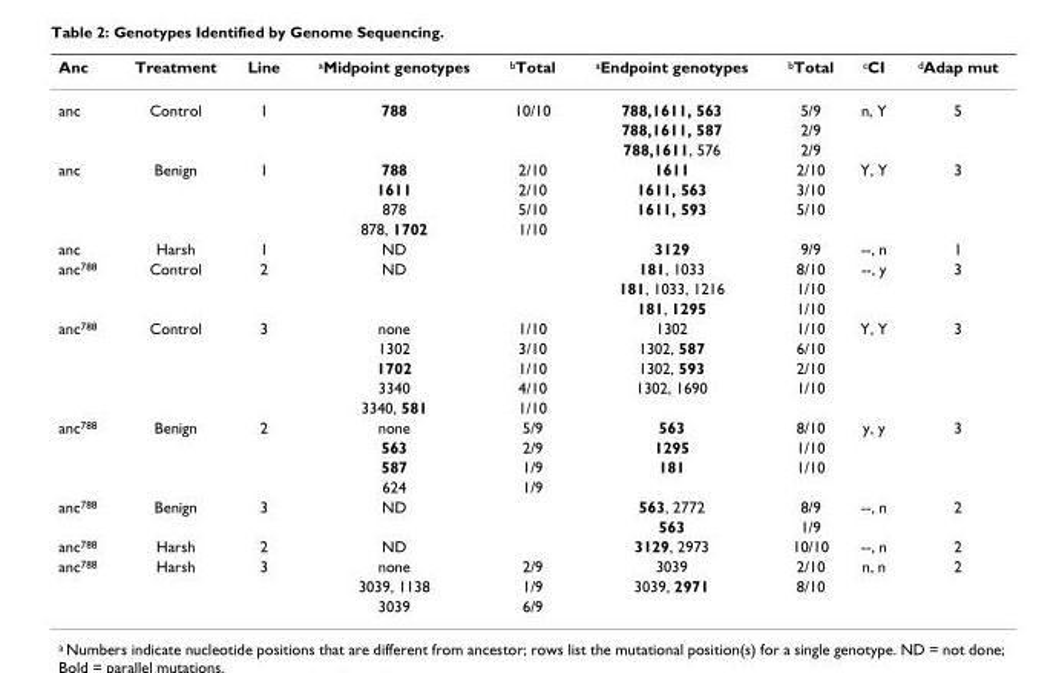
<table><thead><tr><td>Anc</td><td>Treatment</td><td>Line</td><td><sup>a</sup>Midpoint genotypes</td><td><sup>b</sup>Total</td><td><sup>a</sup>Endpoint genotypes</td><td><sup>b</sup>Total</td><td><sup>c</sup>CI</td><td><sup>d</sup>Adap mut</td></tr></thead><tbody><tr><td rowspan="3">anc</td><td>Control</td><td>1</td><td>788</td><td>10/10</td><td>788,1611, 563</td><td>5/9</td><td>n, Y</td><td>5</td></tr><tr><td></td><td></td><td></td><td></td><td>788,1611, 587</td><td>2/9</td><td></td><td></td></tr><tr><td></td><td></td><td></td><td></td><td>788,1611, 576</td><td>2/9</td><td></td><td></td></tr><tr><td rowspan="4">anc</td><td>Benign</td><td>1</td><td>788</td><td>2/10</td><td>1611</td><td>2/10</td><td>Y, Y</td><td>3</td></tr><tr><td></td><td></td><td>1611</td><td>2/10</td><td>1611, 563</td><td>3/10</td><td></td><td></td></tr><tr><td></td><td></td><td>878</td><td>5/10</td><td>1611, 593</td><td>5/10</td><td></td><td></td></tr><tr><td></td><td></td><td>878, 1702</td><td>1/10</td><td></td><td></td><td></td><td></td></tr><tr><td>anc</td><td>Harsh</td><td>1</td><td>ND</td><td></td><td>3129</td><td>9/9</td><td>--, n</td><td>1</td></tr><tr><td rowspan="3">anc<sup>788</sup></td><td>Control</td><td>2</td><td>ND</td><td></td><td>181, 1033</td><td>8/10</td><td>--, y</td><td>3</td></tr><tr><td></td><td></td><td></td><td></td><td>181, 1033, 1216</td><td>1/10</td><td></td><td></td></tr><tr><td></td><td></td><td></td><td></td><td>181, 1295</td><td>1/10</td><td></td><td></td></tr><tr><td rowspan="5">anc<sup>788</sup></td><td>Control</td><td>3</td><td>none</td><td>1/10</td><td>1302</td><td>1/10</td><td>Y, Y</td><td>3</td></tr><tr><td></td><td></td><td>1302</td><td>3/10</td><td>1302, 587</td><td>6/10</td><td></td><td></td></tr><tr><td></td><td></td><td>1702</td><td>1/10</td><td>1302, 593</td><td>2/10</td><td></td><td></td></tr><tr><td></td><td></td><td>3340</td><td>4/10</td><td>1302, 1690</td><td>1/10</td><td></td><td></td></tr><tr><td></td><td></td><td>3340, 581</td><td>1/10</td><td></td><td></td><td></td><td></td></tr><tr><td rowspan="4">anc<sup>788</sup></td><td>Benign</td><td>2</td><td>none</td><td>5/9</td><td>563</td><td>8/10</td><td>y, y</td><td>3</td></tr><tr><td></td><td></td><td>563</td><td>2/9</td><td>1295</td><td>1/10</td><td></td><td></td></tr><tr><td></td><td></td><td>587</td><td>1/9</td><td>181</td><td>1/10</td><td></td><td></td></tr><tr><td></td><td></td><td>624</td><td>1/9</td><td></td><td></td><td></td><td></td></tr><tr><td rowspan="2">anc<sup>788</sup></td><td>Benign</td><td>3</td><td>ND</td><td></td><td>563, 2772</td><td>8/9</td><td>--, n</td><td>2</td></tr><tr><td></td><td></td><td></td><td></td><td>563</td><td>1/9</td><td></td><td></td></tr><tr><td>anc<sup>788</sup></td><td>Harsh</td><td>2</td><td>ND</td><td></td><td>3129, 2973</td><td>10/10</td><td>--, n</td><td>2</td></tr><tr><td rowspan="3">anc<sup>788</sup></td><td>Harsh</td><td>3</td><td>none</td><td>2/9</td><td>3039</td><td>2/10</td><td>n, n</td><td>2</td></tr><tr><td></td><td></td><td>3039, 1138</td><td>1/9</td><td>3039, 2971</td><td>8/10</td><td></td><td></td></tr><tr><td></td><td></td><td>3039</td><td>6/9</td><td></td><td></td><td></td><td></td></tr></tbody></table>